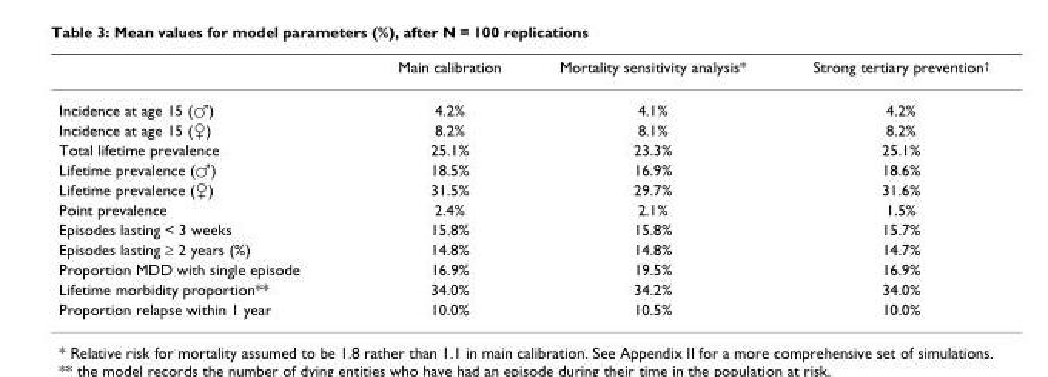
<table><thead><tr><td></td><td>Main calibration</td><td>Mortality sensitivity analysis*</td><td>Strong tertiary prevention<sup>†</sup></td></tr></thead><tbody><tr><td>Incidence at age 15 (♂)</td><td>4.2%</td><td>4.1%</td><td>4.2%</td></tr><tr><td>Incidence at age 15 (♀)</td><td>8.2%</td><td>8.1%</td><td>8.2%</td></tr><tr><td>Total lifetime prevalence</td><td>25.1%</td><td>23.3%</td><td>25.1%</td></tr><tr><td>Lifetime prevalence (♂)</td><td>18.5%</td><td>16.9%</td><td>18.6%</td></tr><tr><td>Lifetime prevalence (♀)</td><td>31.5%</td><td>29.7%</td><td>31.6%</td></tr><tr><td>Point prevalence</td><td>2.4%</td><td>2.1%</td><td>1.5%</td></tr><tr><td>Episodes lasting &lt; 3 weeks</td><td>15.8%</td><td>15.8%</td><td>15.7%</td></tr><tr><td>Episodes lasting ≥ 2 years (%)</td><td>14.8%</td><td>14.8%</td><td>14.7%</td></tr><tr><td>Proportion MDD with single episode</td><td>16.9%</td><td>19.5%</td><td>16.9%</td></tr><tr><td>Lifetime morbidity proportion**</td><td>34.0%</td><td>34.2%</td><td>34.0%</td></tr><tr><td>Proportion relapse within 1 year</td><td>10.0%</td><td>10.5%</td><td>10.0%</td></tr></tbody></table>